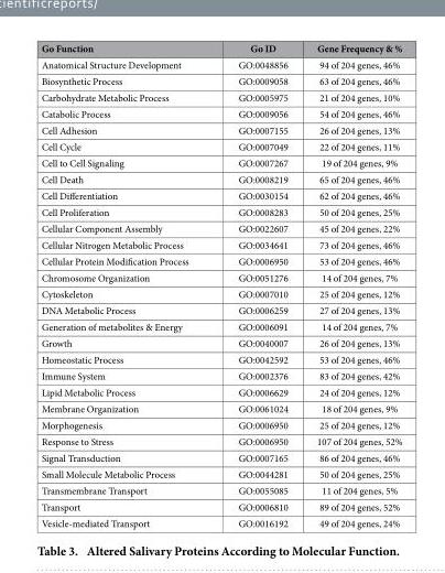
<table><thead><tr><td>Go Function</td><td>Go ID</td><td>Gene Frequency &amp; %</td></tr></thead><tbody><tr><td>Anatomical Structure Development</td><td>GO:0048856</td><td>94 of 204 genes, 46%</td></tr><tr><td>Biosynthetic Process</td><td>GO:0009058</td><td>63 of 204 genes, 46%</td></tr><tr><td>Carbohydrate Metabolic Process</td><td>GO:0005975</td><td>21 of 204 genes, 10%</td></tr><tr><td>Catabolic Process</td><td>GO:0009056</td><td>54 of 204 genes, 46%</td></tr><tr><td>Cell Adhesion</td><td>GO:0007155</td><td>26 of 204 genes, 13%</td></tr><tr><td>Cell Cycle</td><td>GO:0007049</td><td>22 of 204 genes, 11%</td></tr><tr><td>Cell to Cell Signaling</td><td>GO:0007267</td><td>19 of 204 genes, 9%</td></tr><tr><td>Cell Death</td><td>GO:0008219</td><td>65 of 204 genes, 46%</td></tr><tr><td>Cell Differentiation</td><td>GO:0030154</td><td>62 of 204 genes, 46%</td></tr><tr><td>Cell Proliferation</td><td>GO:0008283</td><td>50 of 204 genes, 25%</td></tr><tr><td>Cellular Component Assembly</td><td>GO:0022607</td><td>45 of 204 genes, 22%</td></tr><tr><td>Cellular Nitrogen Metabolic Process</td><td>GO:0034641</td><td>73 of 204 genes, 46%</td></tr><tr><td>Cellular Protein Modification Process</td><td>GO:0006950</td><td>53 of 204 genes, 46%</td></tr><tr><td>Chromosome Organization</td><td>GO:0051276</td><td>14 of 204 genes, 7%</td></tr><tr><td>Cytoskeleton</td><td>GO:0007010</td><td>25 of 204 genes, 12%</td></tr><tr><td>DNA Metabolic Process</td><td>GO:0006259</td><td>27 of 204 genes, 13%</td></tr><tr><td>Generation of metabolites &amp; Energy</td><td>GO:0006091</td><td>14 of 204 genes, 7%</td></tr><tr><td>Growth</td><td>GO:0040007</td><td>26 of 204 genes, 13%</td></tr><tr><td>Homeostatic Process</td><td>GO:0042592</td><td>53 of 204 genes, 46%</td></tr><tr><td>Immune System</td><td>GO:0002376</td><td>83 of 204 genes, 42%</td></tr><tr><td>Lipid Metabolic Process</td><td>GO:0006629</td><td>24 of 204 genes, 12%</td></tr><tr><td>Membrane Organization</td><td>GO:0061024</td><td>18 of 204 genes, 9%</td></tr><tr><td>Morphogenesis</td><td>GO:0006950</td><td>25 of 204 genes, 12%</td></tr><tr><td>Response to Stress</td><td>GO:0006950</td><td>107 of 204 genes, 52%</td></tr><tr><td>Signal Transduction</td><td>GO:0007165</td><td>86 of 204 genes, 46%</td></tr><tr><td>Small Molecule Metabolic Process</td><td>GO:0044281</td><td>50 of 204 genes, 25%</td></tr><tr><td>Transmembrane Transport</td><td>GO:0055085</td><td>11 of 204 genes, 5%</td></tr><tr><td>Transport</td><td>GO:0006810</td><td>89 of 204 genes, 52%</td></tr><tr><td>Vesicle-mediated Transport</td><td>GO:0016192</td><td>49 of 204 genes, 24%</td></tr></tbody></table>